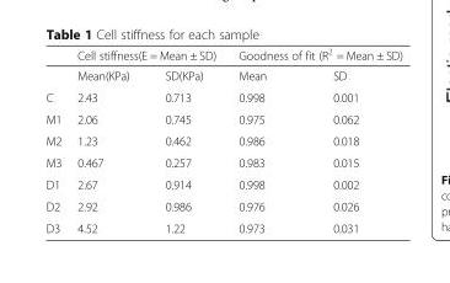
<table><thead><tr><td rowspan="2"></td><td colspan="2">Cell stiffness(E = Mean ± SD)</td><td colspan="2">Goodness of fit (R<sup>2</sup> = Mean ± SD)</td></tr><tr><td>Mean(KPa)</td><td>SD(KPa)</td><td>Mean</td><td>SD</td></tr></thead><tbody><tr><td>C</td><td>2.43</td><td>0.713</td><td>0.998</td><td>0.001</td></tr><tr><td>M1</td><td>2.06</td><td>0.745</td><td>0.975</td><td>0.062</td></tr><tr><td>M2</td><td>1.23</td><td>0.462</td><td>0.986</td><td>0.018</td></tr><tr><td>M3</td><td>0.467</td><td>0.257</td><td>0.983</td><td>0.015</td></tr><tr><td>D1</td><td>2.67</td><td>0.914</td><td>0.998</td><td>0.002</td></tr><tr><td>D2</td><td>2.92</td><td>0.986</td><td>0.976</td><td>0.026</td></tr><tr><td>D3</td><td>4.52</td><td>1.22</td><td>0.973</td><td>0.031</td></tr></tbody></table>